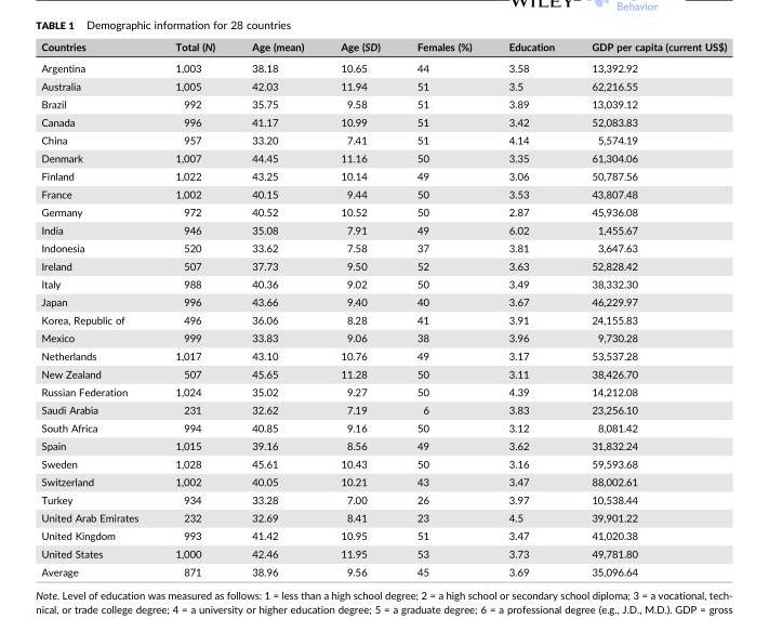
<table><thead><tr><td>Countries</td><td>Total (N)</td><td>Age (mean)</td><td>Age (SD)</td><td>Females (%)</td><td>Education</td><td>GDP per capita (current US$)</td></tr></thead><tbody><tr><td>Argentina</td><td>1,003</td><td>38.18</td><td>10.65</td><td>44</td><td>3.58</td><td>13,392.92</td></tr><tr><td>Australia</td><td>1,005</td><td>42.03</td><td>11.94</td><td>51</td><td>3.5</td><td>62,216.55</td></tr><tr><td>Brazil</td><td>992</td><td>35.75</td><td>9.58</td><td>51</td><td>3.89</td><td>13,039.12</td></tr><tr><td>Canada</td><td>996</td><td>41.17</td><td>10.99</td><td>51</td><td>3.42</td><td>52,083.83</td></tr><tr><td>China</td><td>957</td><td>33.20</td><td>7.41</td><td>51</td><td>4.14</td><td>5,574.19</td></tr><tr><td>Denmark</td><td>1,007</td><td>44.45</td><td>11.16</td><td>50</td><td>3.35</td><td>61,304.06</td></tr><tr><td>Finland</td><td>1,022</td><td>43.25</td><td>10.14</td><td>49</td><td>3.06</td><td>50,787.56</td></tr><tr><td>France</td><td>1,002</td><td>40.15</td><td>9.44</td><td>50</td><td>3.53</td><td>43,807.48</td></tr><tr><td>Germany</td><td>972</td><td>40.52</td><td>10.52</td><td>50</td><td>2.87</td><td>45,936.08</td></tr><tr><td>India</td><td>946</td><td>35.08</td><td>7.91</td><td>49</td><td>6.02</td><td>1,455.67</td></tr><tr><td>Indonesia</td><td>520</td><td>33.62</td><td>7.58</td><td>37</td><td>3.81</td><td>3,647.63</td></tr><tr><td>Ireland</td><td>507</td><td>37.73</td><td>9.50</td><td>52</td><td>3.63</td><td>52,828.42</td></tr><tr><td>Italy</td><td>988</td><td>40.36</td><td>9.02</td><td>50</td><td>3.49</td><td>38,332.30</td></tr><tr><td>Japan</td><td>996</td><td>43.66</td><td>9.40</td><td>40</td><td>3.67</td><td>46,229.97</td></tr><tr><td>Korea, Republic of</td><td>496</td><td>36.06</td><td>8.28</td><td>41</td><td>3.91</td><td>24,155.83</td></tr><tr><td>Mexico</td><td>999</td><td>33.83</td><td>9.06</td><td>38</td><td>3.96</td><td>9,730.28</td></tr><tr><td>Netherlands</td><td>1,017</td><td>43.10</td><td>10.76</td><td>49</td><td>3.17</td><td>53,537.28</td></tr><tr><td>New Zealand</td><td>507</td><td>45.65</td><td>11.28</td><td>50</td><td>3.11</td><td>38,426.70</td></tr><tr><td>Russian Federation</td><td>1,024</td><td>35.02</td><td>9.27</td><td>50</td><td>4.39</td><td>14,212.08</td></tr><tr><td>Saudi Arabia</td><td>231</td><td>32.62</td><td>7.19</td><td>6</td><td>3.83</td><td>23,256.10</td></tr><tr><td>South Africa</td><td>994</td><td>40.85</td><td>9.16</td><td>50</td><td>3.12</td><td>8,081.42</td></tr><tr><td>Spain</td><td>1,015</td><td>39.16</td><td>8.56</td><td>49</td><td>3.62</td><td>31,832.24</td></tr><tr><td>Sweden</td><td>1,028</td><td>45.61</td><td>10.43</td><td>50</td><td>3.16</td><td>59,593.68</td></tr><tr><td>Switzerland</td><td>1,002</td><td>40.05</td><td>10.21</td><td>43</td><td>3.47</td><td>88,002.61</td></tr><tr><td>Turkey</td><td>934</td><td>33.28</td><td>7.00</td><td>26</td><td>3.97</td><td>10,538.44</td></tr><tr><td>United Arab Emirates</td><td>232</td><td>32.69</td><td>8.41</td><td>23</td><td>4.5</td><td>39,901.22</td></tr><tr><td>United Kingdom</td><td>993</td><td>41.42</td><td>10.95</td><td>51</td><td>3.47</td><td>41,020.38</td></tr><tr><td>United States</td><td>1,000</td><td>42.46</td><td>11.95</td><td>53</td><td>3.73</td><td>49,781.80</td></tr><tr><td>Average</td><td>871</td><td>38.96</td><td>9.56</td><td>45</td><td>3.69</td><td>35,096.64</td></tr></tbody></table>